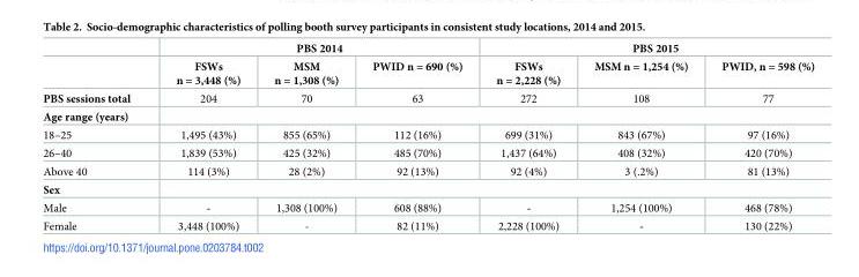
<table><thead><tr><td rowspan="2"></td><td colspan="3">PBS 2014</td><td colspan="3">PBS 2015</td></tr><tr><td>FSWs n = 3,448 (%)</td><td>MSM n = 1,308 (%)</td><td>PWID n = 690 (%)</td><td>FSWs n = 2,228 (%)</td><td>MSM n = 1,254 (%)</td><td>PWID, n = 598 (%)</td></tr></thead><tbody><tr><td>PBS sessions total</td><td>204</td><td>70</td><td>63</td><td>272</td><td>108</td><td>77</td></tr><tr><td colspan="7">Age range (years)</td></tr><tr><td>18–25</td><td>1,495 (43%)</td><td>855 (65%)</td><td>112 (16%)</td><td>699 (31%)</td><td>843 (67%)</td><td>97 (16%)</td></tr><tr><td>26–40</td><td>1,839 (53%)</td><td>425 (32%)</td><td>485 (70%)</td><td>1,437 (64%)</td><td>408 (32%)</td><td>420 (70%)</td></tr><tr><td>Above 40</td><td>114 (3%)</td><td>28 (2%)</td><td>92 (13%)</td><td>92 (4%)</td><td>3 (.2%)</td><td>81 (13%)</td></tr><tr><td colspan="7">Sex</td></tr><tr><td>Male</td><td>-</td><td>1,308 (100%)</td><td>608 (88%)</td><td>-</td><td>1,254 (100%)</td><td>468 (78%)</td></tr><tr><td>Female</td><td>3,448 (100%)</td><td>-</td><td>82 (11%)</td><td>2,228 (100%)</td><td>-</td><td>130 (22%)</td></tr></tbody></table>